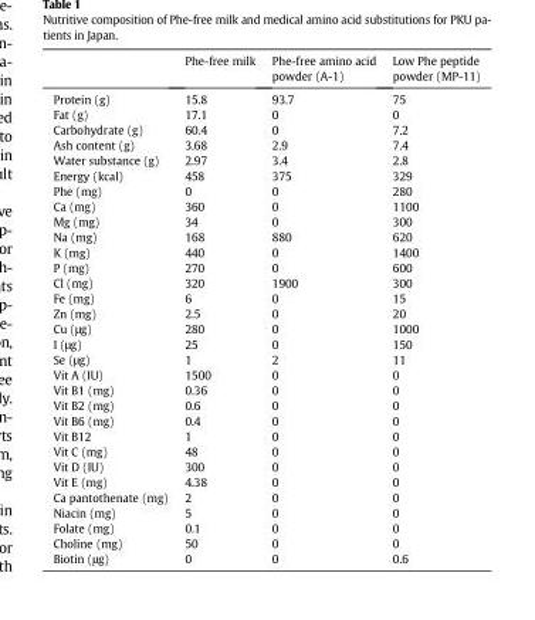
<table><thead><tr><td></td><td>Phe-free milk</td><td>Phe-free amino acid powder (A-1)</td><td>Low Phe peptide powder (MP-11)</td></tr></thead><tbody><tr><td>Protein (g)</td><td>15.8</td><td>93.7</td><td>75</td></tr><tr><td>Fat (g)</td><td>17.1</td><td>0</td><td>0</td></tr><tr><td>Carbohydrate (g)</td><td>60.4</td><td>0</td><td>7.2</td></tr><tr><td>Ash content (g)</td><td>3.68</td><td>2.9</td><td>7.4</td></tr><tr><td>Water substance (g)</td><td>2.97</td><td>3.4</td><td>2.8</td></tr><tr><td>Energy (kcal)</td><td>458</td><td>375</td><td>329</td></tr><tr><td>Phe (mg)</td><td>0</td><td>0</td><td>280</td></tr><tr><td>Ca (mg)</td><td>360</td><td>0</td><td>1100</td></tr><tr><td>Mg (mg)</td><td>34</td><td>0</td><td>300</td></tr><tr><td>Na (mg)</td><td>168</td><td>880</td><td>620</td></tr><tr><td>K (mg)</td><td>440</td><td>0</td><td>1400</td></tr><tr><td>P (mg)</td><td>270</td><td>0</td><td>600</td></tr><tr><td>Cl (mg)</td><td>320</td><td>1900</td><td>300</td></tr><tr><td>Fe (mg)</td><td>6</td><td>0</td><td>15</td></tr><tr><td>Zn (mg)</td><td>2.5</td><td>0</td><td>20</td></tr><tr><td>Cu (μg)</td><td>280</td><td>0</td><td>1000</td></tr><tr><td>I (μg)</td><td>25</td><td>0</td><td>150</td></tr><tr><td>Se (μg)</td><td>1</td><td>2</td><td>11</td></tr><tr><td>Vit A (IU)</td><td>1500</td><td>0</td><td>0</td></tr><tr><td>Vit B1 (mg)</td><td>0.36</td><td>0</td><td>0</td></tr><tr><td>Vit B2 (mg)</td><td>0.6</td><td>0</td><td>0</td></tr><tr><td>Vit B6 (mg)</td><td>0.4</td><td>0</td><td>0</td></tr><tr><td>Vit B12</td><td>1</td><td>0</td><td>0</td></tr><tr><td>Vit C (mg)</td><td>48</td><td>0</td><td>0</td></tr><tr><td>Vit D (IU)</td><td>300</td><td>0</td><td>0</td></tr><tr><td>Vit E (mg)</td><td>4.38</td><td>0</td><td>0</td></tr><tr><td>Ca pantothenate (mg)</td><td>2</td><td>0</td><td>0</td></tr><tr><td>Niacin (mg)</td><td>5</td><td>0</td><td>0</td></tr><tr><td>Folate (mg)</td><td>0.1</td><td>0</td><td>0</td></tr><tr><td>Choline (mg)</td><td>50</td><td>0</td><td>0</td></tr><tr><td>Biotin (μg)</td><td>0</td><td>0</td><td>0.6</td></tr></tbody></table>